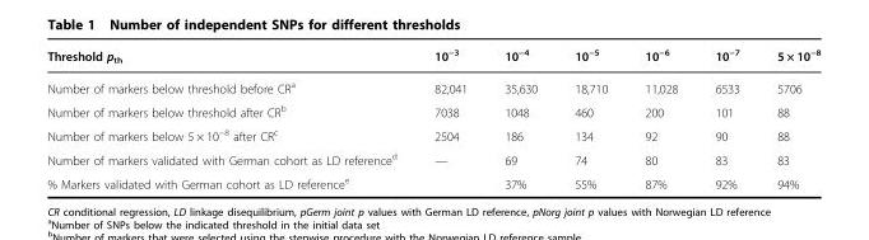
<table><thead><tr><td>Threshold p<sub>th</sub></td><td>10<sup>−3</sup></td><td>10<sup>−4</sup></td><td>10<sup>−5</sup></td><td>10<sup>−6</sup></td><td>10<sup>−7</sup></td><td>5 × 10<sup>−8</sup></td></tr></thead><tbody><tr><td>Number of markers below threshold before CR<sup>a</sup></td><td>82,041</td><td>35,630</td><td>18,710</td><td>11,028</td><td>6533</td><td>5706</td></tr><tr><td>Number of markers below threshold after CR<sup>b</sup></td><td>7038</td><td>1048</td><td>460</td><td>200</td><td>101</td><td>88</td></tr><tr><td>Number of markers below 5 × 10<sup>−8</sup> after CR<sup>c</sup></td><td>2504</td><td>186</td><td>134</td><td>92</td><td>90</td><td>88</td></tr><tr><td>Number of markers validated with German cohort as LD reference<sup>d</sup></td><td>—</td><td>69</td><td>74</td><td>80</td><td>83</td><td>83</td></tr><tr><td>% Markers validated with German cohort as LD reference<sup>e</sup></td><td></td><td>37%</td><td>55%</td><td>87%</td><td>92%</td><td>94%</td></tr></tbody></table>